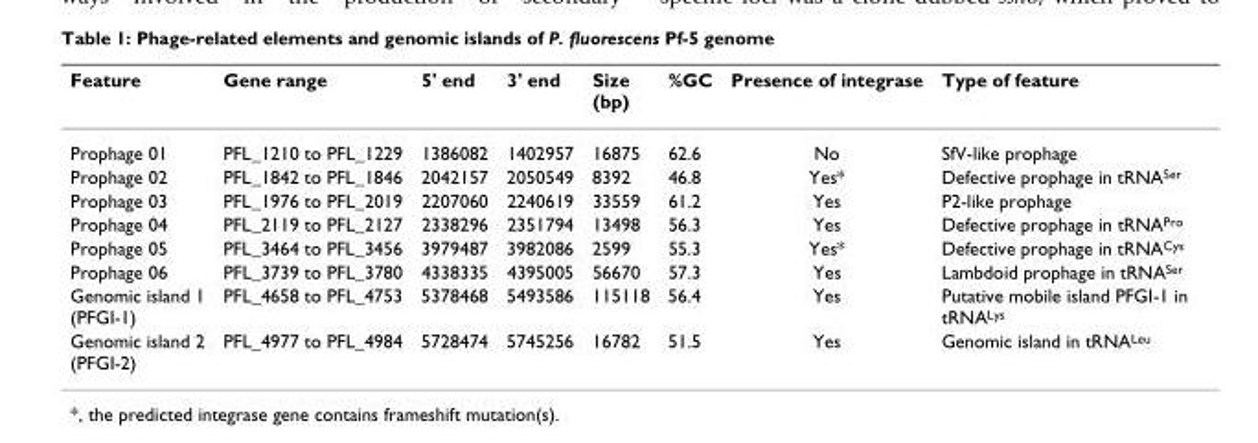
<table><thead><tr><td>Feature</td><td>Gene range</td><td>5&#x27; end</td><td>3&#x27; end</td><td>Size (bp)</td><td>%GC</td><td>Presence of integrase</td><td>Type of feature</td></tr></thead><tbody><tr><td>Prophage 01</td><td>PFL_1210 to PFL_1229</td><td>1386082</td><td>1402957</td><td>16875</td><td>62.6</td><td>No</td><td>SfV-like prophage</td></tr><tr><td>Prophage 02</td><td>PFL_1842 to PFL_1846</td><td>2042157</td><td>2050549</td><td>8392</td><td>46.8</td><td>Yes*</td><td>Defective prophage in tRNA<sup>Ser</sup></td></tr><tr><td>Prophage 03</td><td>PFL_1976 to PFL_2019</td><td>2207060</td><td>2240619</td><td>33559</td><td>61.2</td><td>Yes</td><td>P2-like prophage</td></tr><tr><td>Prophage 04</td><td>PFL_2119 to PFL_2127</td><td>2338296</td><td>2351794</td><td>13498</td><td>56.3</td><td>Yes</td><td>Defective prophage in tRNA<sup>Pro</sup></td></tr><tr><td>Prophage 05</td><td>PFL_3464 to PFL_3456</td><td>3979487</td><td>3982086</td><td>2599</td><td>55.3</td><td>Yes*</td><td>Defective prophage in tRNA<sup>Cys</sup></td></tr><tr><td>Prophage 06</td><td>PFL_3739 to PFL_3780</td><td>4338335</td><td>4395005</td><td>56670</td><td>57.3</td><td>Yes</td><td>Lambdoid prophage in tRNA<sup>Ser</sup></td></tr><tr><td>Genomic island 1 (PFGI-1)</td><td>PFL_4658 to PFL_4753</td><td>5378468</td><td>5493586</td><td>115118</td><td>56.4</td><td>Yes</td><td>Putative mobile island PFGI-1 in tRNA<sup>Lys</sup></td></tr><tr><td>Genomic island 2 (PFGI-2)</td><td>PFL_4977 to PFL_4984</td><td>5728474</td><td>5745256</td><td>16782</td><td>51.5</td><td>Yes</td><td>Genomic island in tRNA<sup>Leu</sup></td></tr></tbody></table>